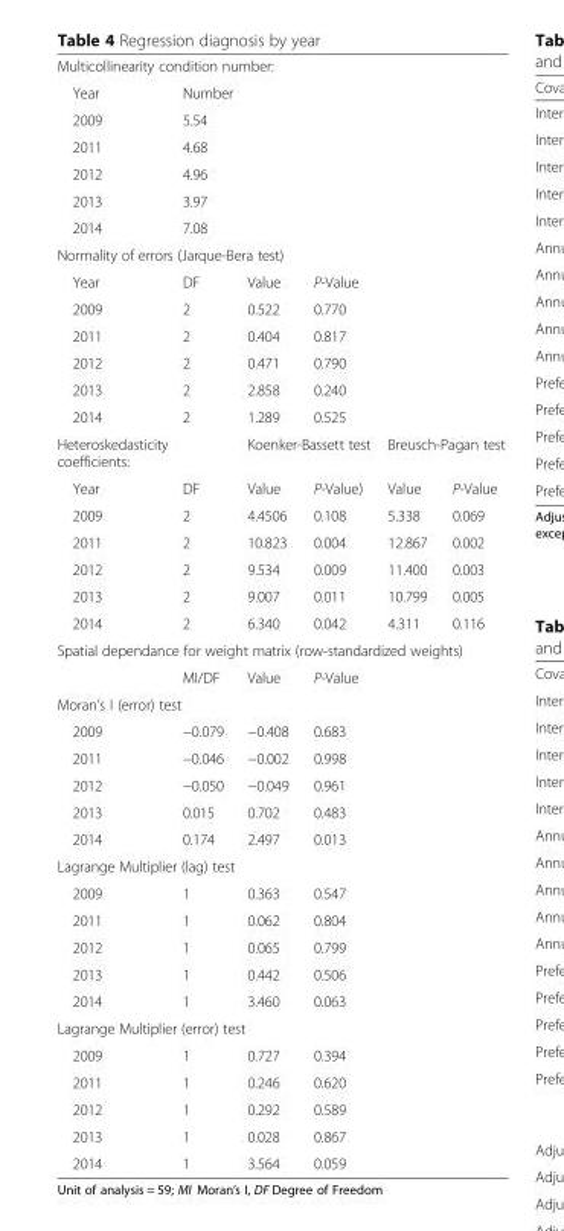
<table><tbody><tr><td colspan="6">Multicollinearity condition number:</td></tr><tr><td>Year</td><td>Number</td><td></td><td></td><td></td><td></td></tr><tr><td>2009</td><td>5.54</td><td></td><td></td><td></td><td></td></tr><tr><td>2011</td><td>4.68</td><td></td><td></td><td></td><td></td></tr><tr><td>2012</td><td>4.96</td><td></td><td></td><td></td><td></td></tr><tr><td>2013</td><td>3.97</td><td></td><td></td><td></td><td></td></tr><tr><td>2014</td><td>7.08</td><td></td><td></td><td></td><td></td></tr><tr><td colspan="6">Normality of errors (Jarque-Bera test)</td></tr><tr><td>Year</td><td>DF</td><td>Value</td><td>P-Value</td><td></td><td></td></tr><tr><td>2009</td><td>2</td><td>0.522</td><td>0.770</td><td></td><td></td></tr><tr><td>2011</td><td>2</td><td>0.404</td><td>0.817</td><td></td><td></td></tr><tr><td>2012</td><td>2</td><td>0.471</td><td>0.790</td><td></td><td></td></tr><tr><td>2013</td><td>2</td><td>2.858</td><td>0.240</td><td></td><td></td></tr><tr><td>2014</td><td>2</td><td>1.289</td><td>0.525</td><td></td><td></td></tr><tr><td>Heteroskedasticity coefficients:</td><td></td><td colspan="2">Koenker-Bassett test</td><td colspan="2">Breusch-Pagan test</td></tr><tr><td>Year</td><td>DF</td><td>Value</td><td>P-Value)</td><td>Value</td><td>P-Value</td></tr><tr><td>2009</td><td>2</td><td>4.4506</td><td>0.108</td><td>5.338</td><td>0.069</td></tr><tr><td>2011</td><td>2</td><td>10.823</td><td>0.004</td><td>12.867</td><td>0.002</td></tr><tr><td>2012</td><td>2</td><td>9.534</td><td>0.009</td><td>11.400</td><td>0.003</td></tr><tr><td>2013</td><td>2</td><td>9.007</td><td>0.011</td><td>10.799</td><td>0.005</td></tr><tr><td>2014</td><td>2</td><td>6.340</td><td>0.042</td><td>4.311</td><td>0.116</td></tr><tr><td colspan="6">Spatial dependance for weight matrix (row-standardized weights)</td></tr><tr><td></td><td>MI/DF</td><td>Value</td><td>P-Value</td><td></td><td></td></tr><tr><td colspan="6">Moran’s I (error) test</td></tr><tr><td>2009</td><td>−0.079</td><td>−0.408</td><td>0.683</td><td></td><td></td></tr><tr><td>2011</td><td>−0.046</td><td>−0.002</td><td>0.998</td><td></td><td></td></tr><tr><td>2012</td><td>−0.050</td><td>−0.049</td><td>0.961</td><td></td><td></td></tr><tr><td>2013</td><td>0.015</td><td>0.702</td><td>0.483</td><td></td><td></td></tr><tr><td>2014</td><td>0.174</td><td>2.497</td><td>0.013</td><td></td><td></td></tr><tr><td colspan="6">Lagrange Multiplier (lag) test</td></tr><tr><td>2009</td><td>1</td><td>0.363</td><td>0.547</td><td></td><td></td></tr><tr><td>2011</td><td>1</td><td>0.062</td><td>0.804</td><td></td><td></td></tr><tr><td>2012</td><td>1</td><td>0.065</td><td>0.799</td><td></td><td></td></tr><tr><td>2013</td><td>1</td><td>0.442</td><td>0.506</td><td></td><td></td></tr><tr><td>2014</td><td>1</td><td>3.460</td><td>0.063</td><td></td><td></td></tr><tr><td colspan="6">Lagrange Multiplier (error) test</td></tr><tr><td>2009</td><td>1</td><td>0.727</td><td>0.394</td><td></td><td></td></tr><tr><td>2011</td><td>1</td><td>0.246</td><td>0.620</td><td></td><td></td></tr><tr><td>2012</td><td>1</td><td>0.292</td><td>0.589</td><td></td><td></td></tr><tr><td>2013</td><td>1</td><td>0.028</td><td>0.867</td><td></td><td></td></tr><tr><td>2014</td><td>1</td><td>3.564</td><td>0.059</td><td></td><td></td></tr></tbody></table>